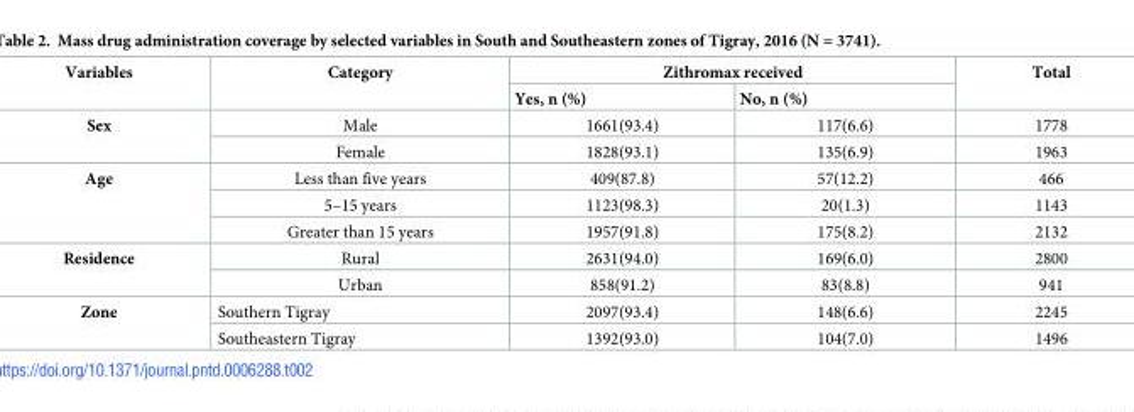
<table><thead><tr><td rowspan="2">Variables</td><td rowspan="2">Category</td><td colspan="2">Zithromax received</td><td rowspan="2">Total</td></tr><tr><td>Yes, n (%)</td><td>No, n (%)</td></tr></thead><tbody><tr><td rowspan="2">Sex</td><td>Male</td><td>1661(93.4)</td><td>117(6.6)</td><td>1778</td></tr><tr><td>Female</td><td>1828(93.1)</td><td>135(6.9)</td><td>1963</td></tr><tr><td rowspan="3">Age</td><td>Less than five years</td><td>409(87.8)</td><td>57(12.2)</td><td>466</td></tr><tr><td>5–15 years</td><td>1123(98.3)</td><td>20(1.3)</td><td>1143</td></tr><tr><td>Greater than 15 years</td><td>1957(91.8)</td><td>175(8.2)</td><td>2132</td></tr><tr><td rowspan="2">Residence</td><td>Rural</td><td>2631(94.0)</td><td>169(6.0)</td><td>2800</td></tr><tr><td>Urban</td><td>858(91.2)</td><td>83(8.8)</td><td>941</td></tr><tr><td rowspan="2">Zone</td><td>Southern Tigray</td><td>2097(93.4)</td><td>148(6.6)</td><td>2245</td></tr><tr><td>Southeastern Tigray</td><td>1392(93.0)</td><td>104(7.0)</td><td>1496</td></tr></tbody></table>